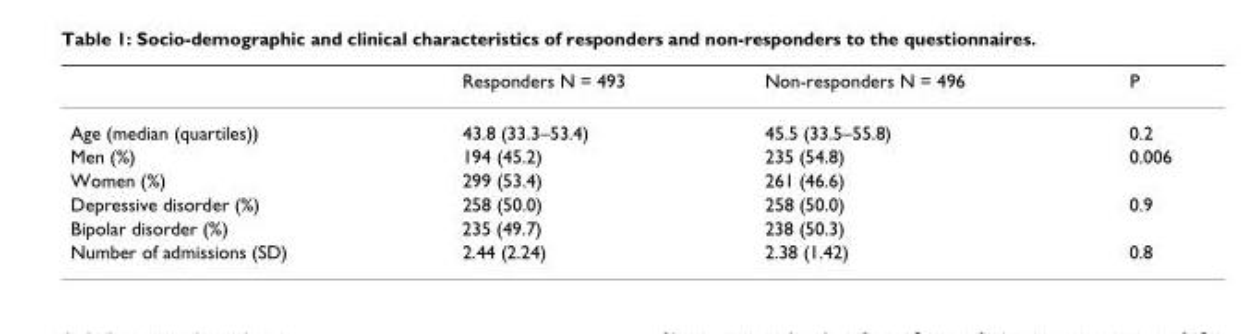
<table><thead><tr><td></td><td>Responders N = 493</td><td>Non-responders N = 496</td><td>P</td></tr></thead><tbody><tr><td>Age (median (quartiles))</td><td>43.8 (33.3–53.4)</td><td>45.5 (33.5–55.8)</td><td>0.2</td></tr><tr><td>Men (%)</td><td>194 (45.2)</td><td>235 (54.8)</td><td>0.006</td></tr><tr><td>Women (%)</td><td>299 (53.4)</td><td>261 (46.6)</td><td></td></tr><tr><td>Depressive disorder (%)</td><td>258 (50.0)</td><td>258 (50.0)</td><td>0.9</td></tr><tr><td>Bipolar disorder (%)</td><td>235 (49.7)</td><td>238 (50.3)</td><td></td></tr><tr><td>Number of admissions (SD)</td><td>2.44 (2.24)</td><td>2.38 (1.42)</td><td>0.8</td></tr></tbody></table>